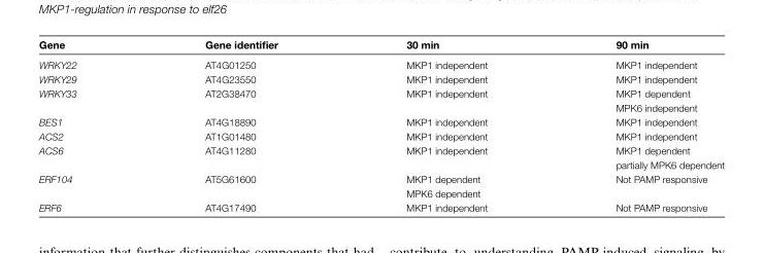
<table><thead><tr><td>Gene</td><td>Gene identifier</td><td>30 min</td><td>90 min</td></tr></thead><tbody><tr><td>WRKY22</td><td>AT4G01250</td><td>MKP1 independent</td><td>MKP1 independent</td></tr><tr><td>WRKY29</td><td>AT4G23550</td><td>MKP1 independent</td><td>MKP1 independent</td></tr><tr><td>WRKY33</td><td>AT2G38470</td><td>MKP1 independent</td><td>MKP1 dependent MPK6 independent</td></tr><tr><td>BES1</td><td>AT4G18890</td><td>MKP1 independent</td><td>MKP1 independent</td></tr><tr><td>ACS2</td><td>AT1G01480</td><td>MKP1 independent</td><td>MKP1 independent</td></tr><tr><td>ACS6</td><td>AT4G11280</td><td>MKP1 independent</td><td>MKP1 dependent partially MPK6 dependent</td></tr><tr><td>ERF104</td><td>AT5G61600</td><td>MKP1 dependent MPK6 dependent</td><td>Not PAMP responsive</td></tr><tr><td>ERF6</td><td>AT4G17490</td><td>MKP1 independent</td><td>Not PAMP responsive</td></tr></tbody></table>